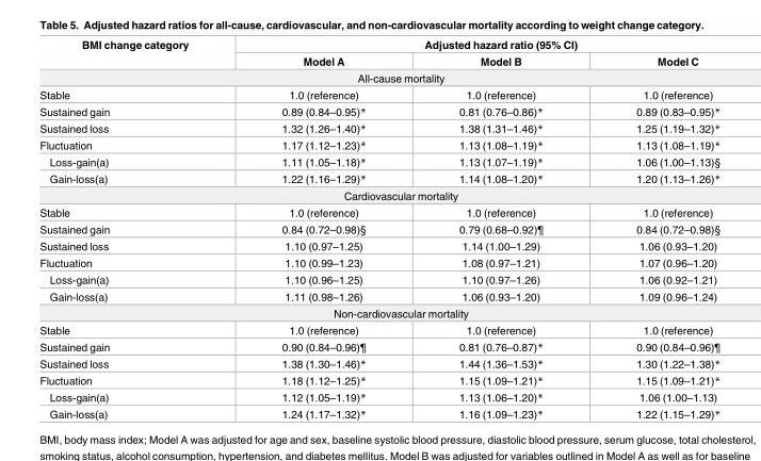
<table><thead><tr><td rowspan="2">BMI change category</td><td colspan="3">Adjusted hazard ratio (95% CI)</td></tr><tr><td>Model A</td><td>Model B</td><td>Model C</td></tr></thead><tbody><tr><td colspan="4">All-cause mortality</td></tr><tr><td>Stable</td><td>1.0 (reference)</td><td>1.0 (reference)</td><td>1.0 (reference)</td></tr><tr><td>Sustained gain</td><td>0.89 (0.84–0.95)*</td><td>0.81 (0.76–0.86)*</td><td>0.89 (0.83–0.95)*</td></tr><tr><td>Sustained loss</td><td>1.32 (1.26–1.40)*</td><td>1.38 (1.31–1.46)*</td><td>1.25 (1.19–1.32)*</td></tr><tr><td>Fluctuation</td><td>1.17 (1.12–1.23)*</td><td>1.13 (1.08–1.19)*</td><td>1.13 (1.08–1.19)*</td></tr><tr><td>Loss-gain(a)</td><td>1.11 (1.05–1.18)*</td><td>1.13 (1.07–1.19)*</td><td>1.06 (1.00–1.13)§</td></tr><tr><td>Gain-loss(a)</td><td>1.22 (1.16–1.29)*</td><td>1.14 (1.08–1.20)*</td><td>1.20 (1.13–1.26)*</td></tr><tr><td colspan="4">Cardiovascular mortality</td></tr><tr><td>Stable</td><td>1.0 (reference)</td><td>1.0 (reference)</td><td>1.0 (reference)</td></tr><tr><td>Sustained gain</td><td>0.84 (0.72–0.98)§</td><td>0.79 (0.68–0.92)¶</td><td>0.84 (0.72–0.98)§</td></tr><tr><td>Sustained loss</td><td>1.10 (0.97–1.25)</td><td>1.14 (1.00–1.29)</td><td>1.06 (0.93–1.20)</td></tr><tr><td>Fluctuation</td><td>1.10 (0.99–1.23)</td><td>1.08 (0.97–1.21)</td><td>1.07 (0.96–1.20)</td></tr><tr><td>Loss-gain(a)</td><td>1.10 (0.96–1.25)</td><td>1.10 (0.97–1.26)</td><td>1.06 (0.92–1.21)</td></tr><tr><td>Gain-loss(a)</td><td>1.11 (0.98–1.26)</td><td>1.06 (0.93–1.20)</td><td>1.09 (0.96–1.24)</td></tr><tr><td colspan="4">Non-cardiovascular mortality</td></tr><tr><td>Stable</td><td>1.0 (reference)</td><td>1.0 (reference)</td><td>1.0 (reference)</td></tr><tr><td>Sustained gain</td><td>0.90 (0.84–0.96)¶</td><td>0.81 (0.76–0.87)*</td><td>0.90 (0.84–0.96)¶</td></tr><tr><td>Sustained loss</td><td>1.38 (1.30–1.46)*</td><td>1.44 (1.36–1.53)*</td><td>1.30 (1.22–1.38)*</td></tr><tr><td>Fluctuation</td><td>1.18 (1.12–1.25)*</td><td>1.15 (1.09–1.21)*</td><td>1.15 (1.09–1.21)*</td></tr><tr><td>Loss-gain(a)</td><td>1.12 (1.05–1.19)*</td><td>1.13 (1.06–1.20)*</td><td>1.06 (1.00–1.13)</td></tr><tr><td>Gain-loss(a)</td><td>1.24 (1.17–1.32)*</td><td>1.16 (1.09–1.23)*</td><td>1.22 (1.15–1.29)*</td></tr></tbody></table>